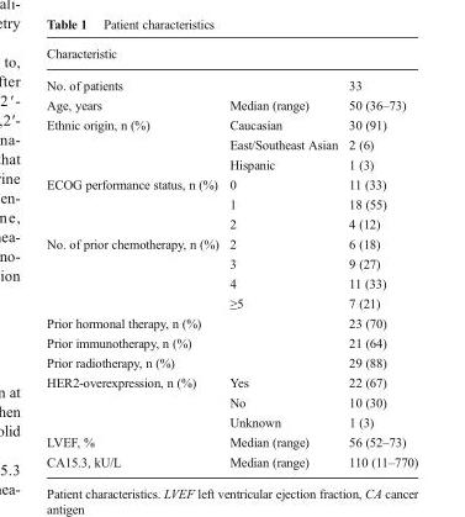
<table><thead><tr><td colspan="3">Characteristic</td></tr><tr><td>No. of patients</td><td></td><td>33</td></tr></thead><tbody><tr><td>Age, years</td><td>Median (range)</td><td>50 (36–73)</td></tr><tr><td rowspan="3">Ethnic origin, n (%)</td><td>Caucasian</td><td>30 (91)</td></tr><tr><td>East/Southeast Asian</td><td>2 (6)</td></tr><tr><td>Hispanic</td><td>1 (3)</td></tr><tr><td rowspan="3">ECOG performance status, n (%)</td><td>0</td><td>11 (33)</td></tr><tr><td>1</td><td>18 (55)</td></tr><tr><td>2</td><td>4 (12)</td></tr><tr><td rowspan="4">No. of prior chemotherapy, n (%)</td><td>2</td><td>6 (18)</td></tr><tr><td>3</td><td>9 (27)</td></tr><tr><td>4</td><td>11 (33)</td></tr><tr><td>≥5</td><td>7 (21)</td></tr><tr><td>Prior hormonal therapy, n (%)</td><td></td><td>23 (70)</td></tr><tr><td>Prior immunotherapy, n (%)</td><td></td><td>21 (64)</td></tr><tr><td>Prior radiotherapy, n (%)</td><td></td><td>29 (88)</td></tr><tr><td rowspan="3">HER2-overexpression, n (%)</td><td>Yes</td><td>22 (67)</td></tr><tr><td>No</td><td>10 (30)</td></tr><tr><td>Unknown</td><td>1 (3)</td></tr><tr><td>LVEF, %</td><td>Median (range)</td><td>56 (52–73)</td></tr><tr><td>CA15.3, kU/L</td><td>Median (range)</td><td>110 (11–770)</td></tr></tbody></table>